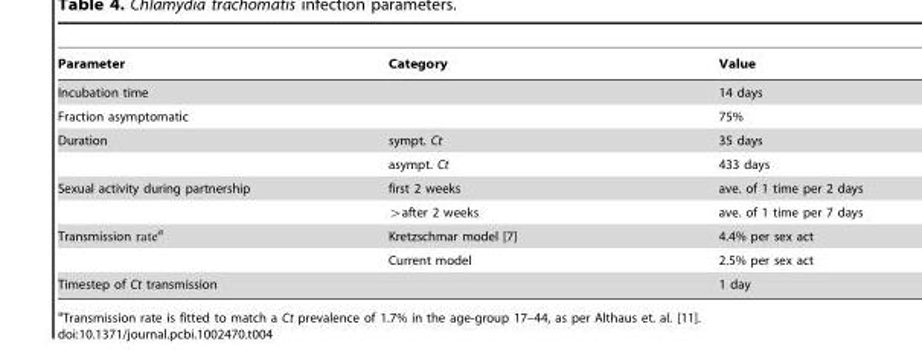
<table><thead><tr><td>Parameter</td><td>Category</td><td>Value</td></tr></thead><tbody><tr><td>Incubation time</td><td></td><td>14 days</td></tr><tr><td>Fraction asymptomatic</td><td></td><td>75%</td></tr><tr><td rowspan="2">Duration</td><td>sympt. Ct</td><td>35 days</td></tr><tr><td>asympt. Ct</td><td>433 days</td></tr><tr><td rowspan="2">Sexual activity during partnership</td><td>first 2 weeks</td><td>ave. of 1 time per 2 days</td></tr><tr><td>wafter 2 weeks</td><td>ave. of 1 time per 7 days</td></tr><tr><td rowspan="2">Transmission ratea</td><td>Kretzschmar model [7]</td><td>4.4% per sex act</td></tr><tr><td>Current model</td><td>2.5% per sex act</td></tr><tr><td>Timestep of Ct transmission</td><td></td><td>1 day</td></tr></tbody></table>